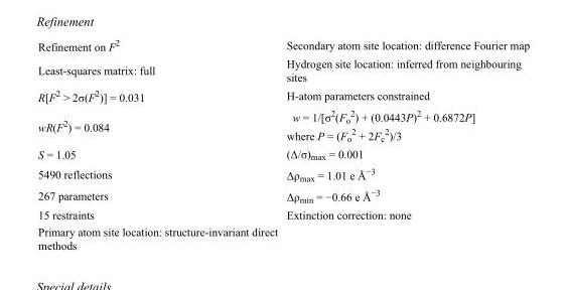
<table><tbody><tr><td>Refinement on F<sup>2</sup></td><td>Secondary atom site location: difference Fourier map</td></tr><tr><td>Least-squares matrix: full</td><td>Hydrogen site location: inferred from neighbouring sites</td></tr><tr><td>R[F<sup>2</sup> &gt; 2σ(F<sup>2</sup>)] = 0.031</td><td>H-atom parameters constrained</td></tr><tr><td>wR(F<sup>2</sup>) = 0.084</td><td>w = 1/[σ<sup>2</sup>(F<sub>o</sub> <sup>2</sup>) + (0.0443P)<sup>2</sup> + 0.6872P] where P = (F<sub>o</sub> <sup>2</sup> + 2F<sub>c</sub> <sup>2</sup>)/3</td></tr><tr><td>S = 1.05</td><td>(Δ/σ)<sub>max</sub> = 0.001</td></tr><tr><td>5490 reflections</td><td>Δρ<sub>max</sub> = 1.01 e Å<sup>−3</sup></td></tr><tr><td>267 parameters</td><td>Δρ<sub>min</sub> = −0.66 e Å<sup>−3</sup></td></tr><tr><td>15 restraints</td><td>Extinction correction: none</td></tr><tr><td>Primary atom site location: structure-invariant direct methods</td><td></td></tr></tbody></table>